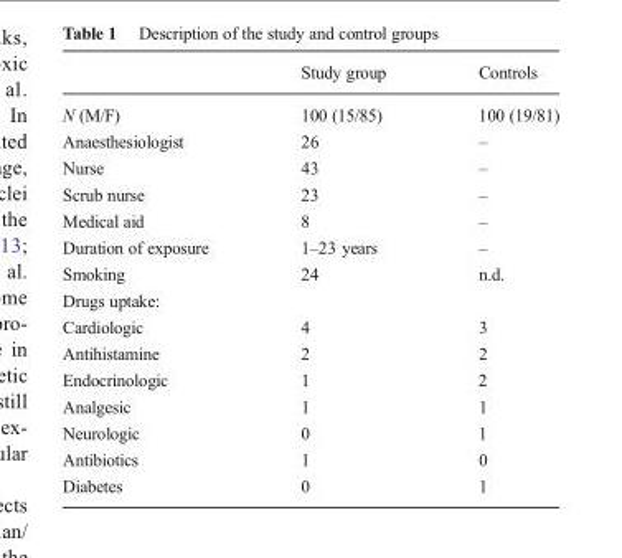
<table><thead><tr><td></td><td>Study group</td><td>Controls</td></tr></thead><tbody><tr><td>N (M/F)</td><td>100 (15/85)</td><td>100 (19/81)</td></tr><tr><td>Anaesthesiologist</td><td>26</td><td>–</td></tr><tr><td>Nurse</td><td>43</td><td>–</td></tr><tr><td>Scrub nurse</td><td>23</td><td>–</td></tr><tr><td>Medical aid</td><td>8</td><td>–</td></tr><tr><td>Duration of exposure</td><td>1–23 years</td><td>–</td></tr><tr><td>Smoking</td><td>24</td><td>n.d.</td></tr><tr><td colspan="3">Drugs uptake:</td></tr><tr><td>Cardiologic</td><td>4</td><td>3</td></tr><tr><td>Antihistamine</td><td>2</td><td>2</td></tr><tr><td>Endocrinologic</td><td>1</td><td>2</td></tr><tr><td>Analgesic</td><td>1</td><td>1</td></tr><tr><td>Neurologic</td><td>0</td><td>1</td></tr><tr><td>Antibiotics</td><td>1</td><td>0</td></tr><tr><td>Diabetes</td><td>0</td><td>1</td></tr></tbody></table>